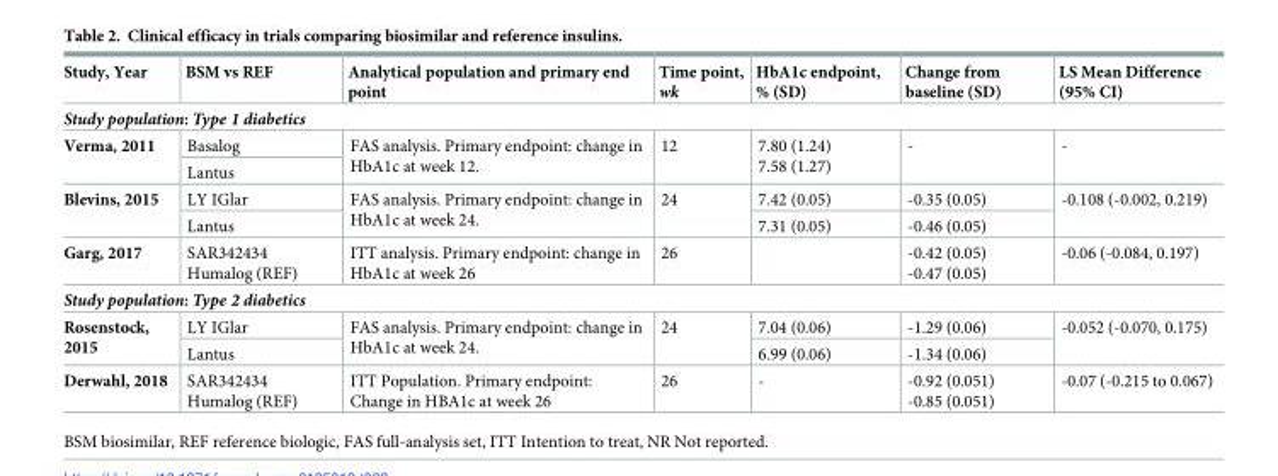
<table><thead><tr><td>Study, Year</td><td>BSM vs REF</td><td>Analytical population and primary end point</td><td>Time point, wk</td><td>HbA1c endpoint, % (SD)</td><td>Change from baseline (SD)</td><td>LS Mean Difference (95% CI)</td></tr></thead><tbody><tr><td colspan="7">Study population: Type 1 diabetics</td></tr><tr><td rowspan="2">Verma, 2011</td><td>Basalog</td><td rowspan="2">FAS analysis. Primary endpoint: change in HbA1c at week 12.</td><td rowspan="2">12</td><td rowspan="2">7.80 (1.24) 7.58 (1.27)</td><td rowspan="2">-</td><td rowspan="2">-</td></tr><tr><td>Lantus</td></tr><tr><td rowspan="2">Blevins, 2015</td><td>LY IGlar</td><td rowspan="2">FAS analysis. Primary endpoint: change in HbA1c at week 24.</td><td rowspan="2">24</td><td>7.42 (0.05)</td><td>-0.35 (0.05)</td><td rowspan="2">-0.108 (-0.002, 0.219)</td></tr><tr><td>Lantus</td><td>7.31 (0.05)</td><td>-0.46 (0.05)</td></tr><tr><td>Garg, 2017</td><td>SAR342434 Humalog (REF)</td><td>ITT analysis. Primary endpoint: change in HbA1c at week 26</td><td>26</td><td></td><td>-0.42 (0.05) -0.47 (0.05)</td><td>-0.06 (-0.084, 0.197)</td></tr><tr><td colspan="7">Study population: Type 2 diabetics</td></tr><tr><td rowspan="2">Rosenstock, 2015</td><td>LY IGlar</td><td rowspan="2">FAS analysis. Primary endpoint: change in HbA1c at week 24.</td><td rowspan="2">24</td><td>7.04 (0.06)</td><td>-1.29 (0.06)</td><td rowspan="2">-0.052 (-0.070, 0.175)</td></tr><tr><td>Lantus</td><td>6.99 (0.06)</td><td>-1.34 (0.06)</td></tr><tr><td>Derwahl, 2018</td><td>SAR342434 Humalog (REF)</td><td>ITT Population. Primary endpoint: Change in HBA1c at week 26</td><td>26</td><td>-</td><td>-0.92 (0.051) -0.85 (0.051)</td><td>-0.07 (-0.215 to 0.067)</td></tr></tbody></table>